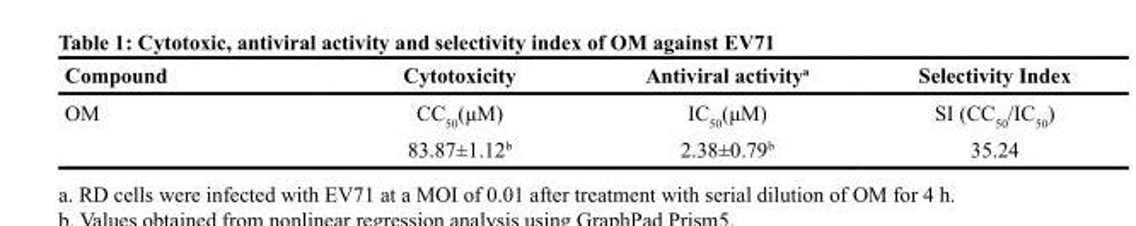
<table><thead><tr><td>Compound</td><td>Cytotoxicity</td><td>Antiviral activity <sup>a</sup></td><td>Selectivity Index</td></tr></thead><tbody><tr><td rowspan="2">OM</td><td>CC <sub>50</sub> (μM)</td><td>IC <sub>50</sub> (μM)</td><td>SI (CC <sub>50</sub> /IC <sub>50</sub> )</td></tr><tr><td>83.87±1.12 <sup>b</sup></td><td>2.38±0.79 <sup>b</sup></td><td>35.24</td></tr></tbody></table>